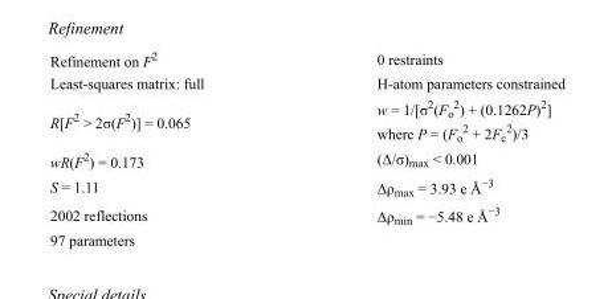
<table><tbody><tr><td>Refinement on F<sup>2</sup></td><td>0 restraints</td></tr><tr><td>Least-squares matrix: full</td><td>H-atom parameters constrained</td></tr><tr><td>R[F<sup>2</sup> &gt; 2σ(F<sup>2</sup>)] = 0.065</td><td>w = 1/[σ<sup>2</sup>(F<sub>o</sub> <sup>2</sup>) + (0.1262P)<sup>2</sup>] where P = (F<sub>o</sub> <sup>2</sup> + 2F<sub>c</sub> <sup>2</sup>)/3</td></tr><tr><td>wR(F<sup>2</sup>) = 0.173</td><td>(Δ/σ)<sub>max</sub> &lt; 0.001</td></tr><tr><td>S = 1.11</td><td>Δρ<sub>max</sub> = 3.93 e Å<sup>−3</sup></td></tr><tr><td>2002 reflections</td><td>Δρ<sub>min</sub> = −5.48 e Å<sup>−3</sup></td></tr><tr><td>97 parameters</td><td></td></tr></tbody></table>